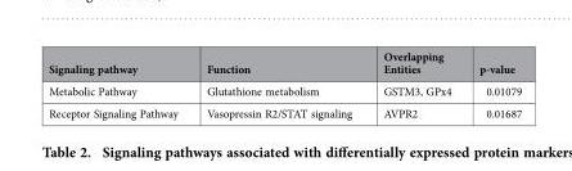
<table><thead><tr><td>Signaling pathway</td><td>Function</td><td>Overlapping Entities</td><td>p-value</td></tr></thead><tbody><tr><td>Metabolic Pathway</td><td>Glutathione metabolism</td><td>GSTM3, GPx4</td><td>0.01079</td></tr><tr><td>Receptor Signaling Pathway</td><td>Vasopressin R2/STAT signaling</td><td>AVPR2</td><td>0.01687</td></tr></tbody></table>